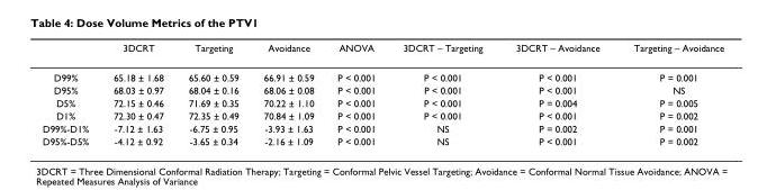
<table><thead><tr><td></td><td>3DCRT</td><td>Targeting</td><td>Avoidance</td><td>ANOVA</td><td>3DCRT – Targeting</td><td>3DCRT – Avoidance</td><td>Targeting – Avoidance</td></tr></thead><tbody><tr><td>D99%</td><td>65.18 ± 1.68</td><td>65.60 ± 0.59</td><td>66.91 ± 0.59</td><td>P &lt; 0.001</td><td>P &lt; 0.001</td><td>P &lt; 0.001</td><td>P = 0.001</td></tr><tr><td>D95%</td><td>68.03 ± 0.97</td><td>68.04 ± 0.16</td><td>68.06 ± 0.08</td><td>P &lt; 0.001</td><td>P &lt; 0.001</td><td>P &lt; 0.001</td><td>NS</td></tr><tr><td>D5%</td><td>72.15 ± 0.46</td><td>71.69 ± 0.35</td><td>70.22 ± 1.10</td><td>P &lt; 0.001</td><td>P &lt; 0.001</td><td>P = 0.004</td><td>P = 0.005</td></tr><tr><td>D1%</td><td>72.30 ± 0.47</td><td>72.35 ± 0.49</td><td>70.84 ± 1.09</td><td>P &lt; 0.001</td><td>P &lt; 0.001</td><td>P &lt; 0.001</td><td>P = 0.002</td></tr><tr><td>D99%-D1%</td><td>-7.12 ± 1.63</td><td>-6.75 ± 0.95</td><td>-3.93 ± 1.63</td><td>P &lt; 0.001</td><td>NS</td><td>P = 0.002</td><td>P = 0.001</td></tr><tr><td>D95%-D5%</td><td>-4.12 ± 0.92</td><td>-3.65 ± 0.34</td><td>-2.16 ± 1.09</td><td>P &lt; 0.001</td><td>NS</td><td>P &lt; 0.001</td><td>P = 0.002</td></tr></tbody></table>